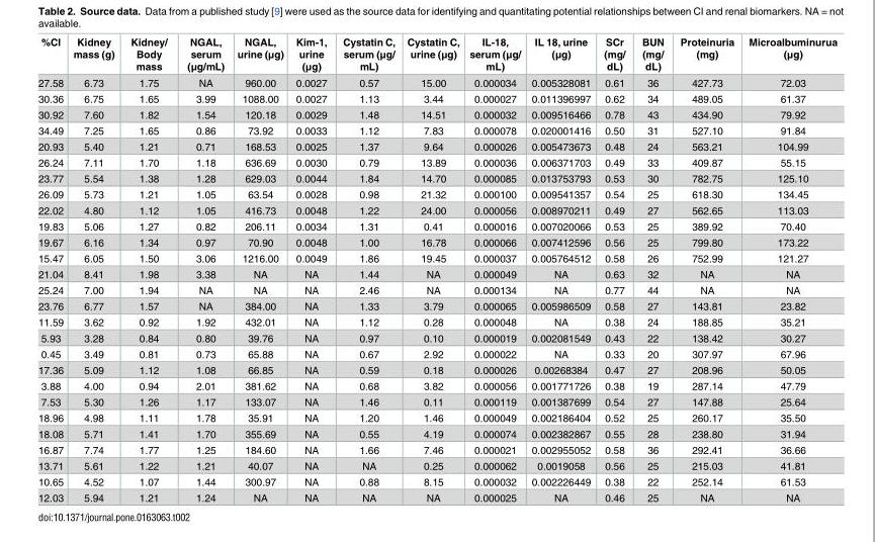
<table><thead><tr><td>%CI</td><td>Kidney mass (g)</td><td>Kidney/ Body mass</td><td>NGAL, serum (μg/mL)</td><td>NGAL, urine (μg)</td><td>Kim-1, urine (μg)</td><td>Cystatin C, serum (μg/ mL)</td><td>Cystatin C, urine (μg)</td><td>IL-18, serum (μg/ mL)</td><td>IL 18, urine (μg)</td><td>SCr (mg/ dL)</td><td>BUN (mg/ dL)</td><td>Proteinuria (mg)</td><td>Microalbuminurua (μg)</td></tr></thead><tbody><tr><td>27.58</td><td>6.73</td><td>1.75</td><td>NA</td><td>960.00</td><td>0.0027</td><td>0.57</td><td>15.00</td><td>0.000034</td><td>0.005328081</td><td>0.61</td><td>36</td><td>427.73</td><td>72.03</td></tr><tr><td>30.36</td><td>6.75</td><td>1.65</td><td>3.99</td><td>1088.00</td><td>0.0027</td><td>1.13</td><td>3.44</td><td>0.000027</td><td>0.011396997</td><td>0.62</td><td>34</td><td>489.05</td><td>61.37</td></tr><tr><td>30.92</td><td>7.60</td><td>1.82</td><td>1.54</td><td>120.18</td><td>0.0029</td><td>1.48</td><td>14.51</td><td>0.000032</td><td>0.009516466</td><td>0.78</td><td>43</td><td>434.90</td><td>79.92</td></tr><tr><td>34.49</td><td>7.25</td><td>1.65</td><td>0.86</td><td>73.92</td><td>0.0033</td><td>1.12</td><td>7.83</td><td>0.000078</td><td>0.020001416</td><td>0.50</td><td>31</td><td>527.10</td><td>91.84</td></tr><tr><td>20.93</td><td>5.40</td><td>1.21</td><td>0.71</td><td>168.53</td><td>0.0025</td><td>1.37</td><td>9.64</td><td>0.000026</td><td>0.005473673</td><td>0.48</td><td>24</td><td>563.21</td><td>104.99</td></tr><tr><td>26.24</td><td>7.11</td><td>1.70</td><td>1.18</td><td>636.69</td><td>0.0030</td><td>0.79</td><td>13.89</td><td>0.000036</td><td>0.006371703</td><td>0.49</td><td>33</td><td>409.87</td><td>55.15</td></tr><tr><td>23.77</td><td>5.54</td><td>1.38</td><td>1.28</td><td>629.03</td><td>0.0044</td><td>1.84</td><td>14.70</td><td>0.000085</td><td>0.013753793</td><td>0.53</td><td>30</td><td>782.75</td><td>125.10</td></tr><tr><td>26.09</td><td>5.73</td><td>1.21</td><td>1.05</td><td>63.54</td><td>0.0028</td><td>0.98</td><td>21.32</td><td>0.000100</td><td>0.009541357</td><td>0.54</td><td>25</td><td>618.30</td><td>134.45</td></tr><tr><td>22.02</td><td>4.80</td><td>1.12</td><td>1.05</td><td>416.73</td><td>0.0048</td><td>1.22</td><td>24.00</td><td>0.000056</td><td>0.008970211</td><td>0.49</td><td>27</td><td>562.65</td><td>113.03</td></tr><tr><td>19.83</td><td>5.06</td><td>1.27</td><td>0.82</td><td>206.11</td><td>0.0034</td><td>1.31</td><td>0.41</td><td>0.000016</td><td>0.007020066</td><td>0.53</td><td>25</td><td>389.92</td><td>70.40</td></tr><tr><td>19.67</td><td>6.16</td><td>1.34</td><td>0.97</td><td>70.90</td><td>0.0048</td><td>1.00</td><td>16.78</td><td>0.000066</td><td>0.007412596</td><td>0.56</td><td>25</td><td>799.80</td><td>173.22</td></tr><tr><td>15.47</td><td>6.05</td><td>1.50</td><td>3.06</td><td>1216.00</td><td>0.0049</td><td>1.86</td><td>19.45</td><td>0.000037</td><td>0.005764512</td><td>0.58</td><td>26</td><td>752.99</td><td>121.27</td></tr><tr><td>21.04</td><td>8.41</td><td>1.98</td><td>3.38</td><td>NA</td><td>NA</td><td>1.44</td><td>NA</td><td>0.000049</td><td>NA</td><td>0.63</td><td>32</td><td>NA</td><td>NA</td></tr><tr><td>25.24</td><td>7.00</td><td>1.94</td><td>NA</td><td>NA</td><td>NA</td><td>2.46</td><td>NA</td><td>0.000134</td><td>NA</td><td>0.77</td><td>44</td><td>NA</td><td>NA</td></tr><tr><td>23.76</td><td>6.77</td><td>1.57</td><td>NA</td><td>384.00</td><td>NA</td><td>1.33</td><td>3.79</td><td>0.000065</td><td>0.005986509</td><td>0.58</td><td>27</td><td>143.81</td><td>23.82</td></tr><tr><td>11.59</td><td>3.62</td><td>0.92</td><td>1.92</td><td>432.01</td><td>NA</td><td>1.12</td><td>0.28</td><td>0.000048</td><td>NA</td><td>0.38</td><td>24</td><td>188.85</td><td>35.21</td></tr><tr><td>5.93</td><td>3.28</td><td>0.84</td><td>0.80</td><td>39.76</td><td>NA</td><td>0.97</td><td>0.10</td><td>0.000019</td><td>0.002081549</td><td>0.43</td><td>22</td><td>138.42</td><td>30.27</td></tr><tr><td>0.45</td><td>3.49</td><td>0.81</td><td>0.73</td><td>65.88</td><td>NA</td><td>0.67</td><td>2.92</td><td>0.000022</td><td>NA</td><td>0.33</td><td>20</td><td>307.97</td><td>67.96</td></tr><tr><td>17.36</td><td>5.09</td><td>1.12</td><td>1.08</td><td>66.85</td><td>NA</td><td>0.59</td><td>0.18</td><td>0.000026</td><td>0.00268384</td><td>0.47</td><td>27</td><td>208.96</td><td>50.05</td></tr><tr><td>3.88</td><td>4.00</td><td>0.94</td><td>2.01</td><td>381.62</td><td>NA</td><td>0.68</td><td>3.82</td><td>0.000056</td><td>0.001771726</td><td>0.38</td><td>19</td><td>287.14</td><td>47.79</td></tr><tr><td>7.53</td><td>5.30</td><td>1.26</td><td>1.17</td><td>133.07</td><td>NA</td><td>1.46</td><td>0.11</td><td>0.000119</td><td>0.001387699</td><td>0.54</td><td>27</td><td>147.88</td><td>25.64</td></tr><tr><td>18.96</td><td>4.98</td><td>1.11</td><td>1.78</td><td>35.91</td><td>NA</td><td>1.20</td><td>1.46</td><td>0.000049</td><td>0.002186404</td><td>0.52</td><td>25</td><td>260.17</td><td>35.50</td></tr><tr><td>18.08</td><td>5.71</td><td>1.41</td><td>1.70</td><td>355.69</td><td>NA</td><td>0.55</td><td>4.19</td><td>0.000074</td><td>0.002382867</td><td>0.55</td><td>28</td><td>238.80</td><td>31.94</td></tr><tr><td>16.87</td><td>7.74</td><td>1.77</td><td>1.25</td><td>184.60</td><td>NA</td><td>1.66</td><td>7.46</td><td>0.000021</td><td>0.002955052</td><td>0.58</td><td>36</td><td>292.41</td><td>36.66</td></tr><tr><td>13.71</td><td>5.61</td><td>1.22</td><td>1.21</td><td>40.07</td><td>NA</td><td>NA</td><td>0.25</td><td>0.000062</td><td>0.0019058</td><td>0.56</td><td>25</td><td>215.03</td><td>41.81</td></tr><tr><td>10.65</td><td>4.52</td><td>1.07</td><td>1.44</td><td>300.97</td><td>NA</td><td>0.88</td><td>8.15</td><td>0.000032</td><td>0.002226449</td><td>0.38</td><td>22</td><td>252.14</td><td>61.53</td></tr><tr><td>12.03</td><td>5.94</td><td>1.21</td><td>1.24</td><td>NA</td><td>NA</td><td>NA</td><td>NA</td><td>0.000025</td><td>NA</td><td>0.46</td><td>25</td><td>NA</td><td>NA</td></tr></tbody></table>